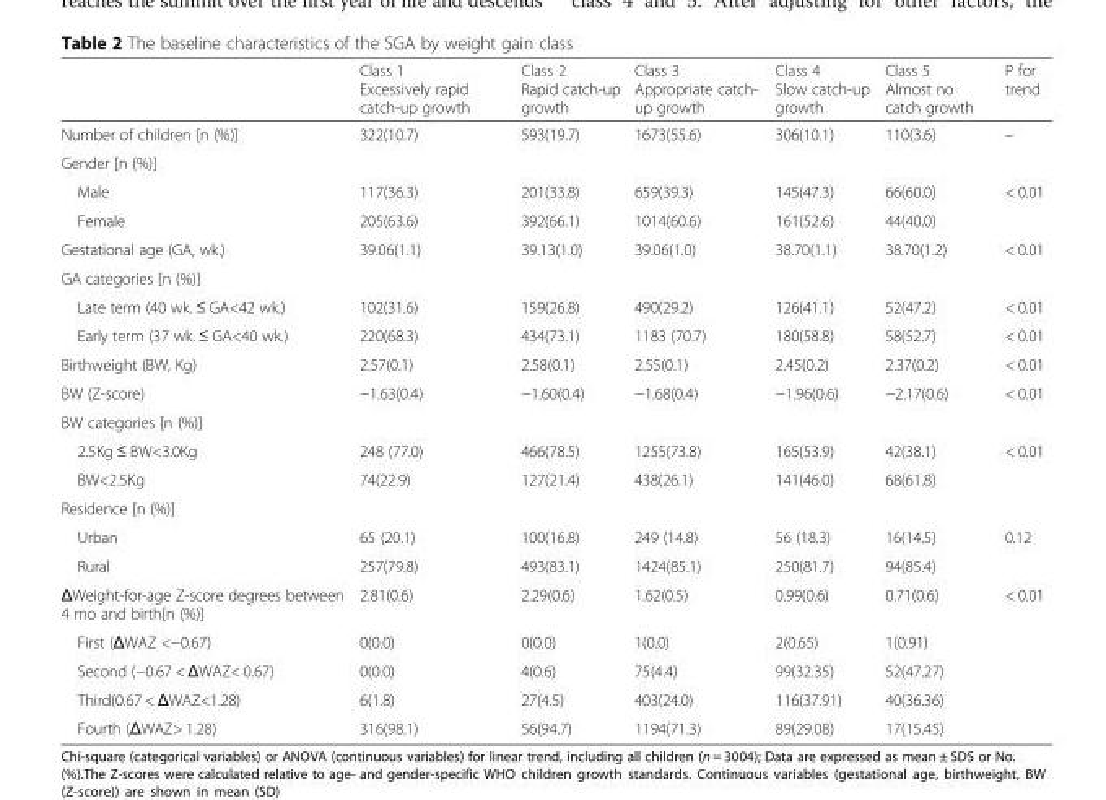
<table><thead><tr><td></td><td>Class 1 Excessively rapid catch-up growth</td><td>Class 2 Rapid catch-up growth</td><td>Class 3 Appropriate catch- up growth</td><td>Class 4 Slow catch-up growth</td><td>Class 5 Almost no catch growth</td><td>P for trend</td></tr></thead><tbody><tr><td>Number of children [n (%)]</td><td>322(10.7)</td><td>593(19.7)</td><td>1673(55.6)</td><td>306(10.1)</td><td>110(3.6)</td><td>–</td></tr><tr><td colspan="7">Gender [n (%)]</td></tr><tr><td>Male</td><td>117(36.3)</td><td>201(33.8)</td><td>659(39.3)</td><td>145(47.3)</td><td>66(60.0)</td><td rowspan="2">&lt; 0.01</td></tr><tr><td>Female</td><td>205(63.6)</td><td>392(66.1)</td><td>1014(60.6)</td><td>161(52.6)</td><td>44(40.0)</td></tr><tr><td>Gestational age (GA, wk.)</td><td>39.06(1.1)</td><td>39.13(1.0)</td><td>39.06(1.0)</td><td>38.70(1.1)</td><td>38.70(1.2)</td><td>&lt; 0.01</td></tr><tr><td colspan="7">GA categories [n (%)]</td></tr><tr><td>Late term (40 wk. ≤ GA&lt;42 wk.)</td><td>102(31.6)</td><td>159(26.8)</td><td>490(29.2)</td><td>126(41.1)</td><td>52(47.2)</td><td>&lt; 0.01</td></tr><tr><td>Early term (37 wk. ≤ GA&lt;40 wk.)</td><td>220(68.3)</td><td>434(73.1)</td><td>1183 (70.7)</td><td>180(58.8)</td><td>58(52.7)</td><td>&lt; 0.01</td></tr><tr><td>Birthweight (BW, Kg)</td><td>2.57(0.1)</td><td>2.58(0.1)</td><td>2.55(0.1)</td><td>2.45(0.2)</td><td>2.37(0.2)</td><td>&lt; 0.01</td></tr><tr><td>BW (Z-score)</td><td>−1.63(0.4)</td><td>−1.60(0.4)</td><td>−1.68(0.4)</td><td>−1.96(0.6)</td><td>−2.17(0.6)</td><td>&lt; 0.01</td></tr><tr><td colspan="7">BW categories [n (%)]</td></tr><tr><td>2.5Kg ≤ BW&lt;3.0Kg</td><td>248 (77.0)</td><td>466(78.5)</td><td>1255(73.8)</td><td>165(53.9)</td><td>42(38.1)</td><td rowspan="2">&lt; 0.01</td></tr><tr><td>BW&lt;2.5Kg</td><td>74(22.9)</td><td>127(21.4)</td><td>438(26.1)</td><td>141(46.0)</td><td>68(61.8)</td></tr><tr><td colspan="7">Residence [n (%)]</td></tr><tr><td>Urban</td><td>65 (20.1)</td><td>100(16.8)</td><td>249 (14.8)</td><td>56 (18.3)</td><td>16(14.5)</td><td rowspan="2">0.12</td></tr><tr><td>Rural</td><td>257(79.8)</td><td>493(83.1)</td><td>1424(85.1)</td><td>250(81.7)</td><td>94(85.4)</td></tr><tr><td>ΔWeight-for-age Z-score degrees between 4 mo and birth[n (%)]</td><td>2.81(0.6)</td><td>2.29(0.6)</td><td>1.62(0.5)</td><td>0.99(0.6)</td><td>0.71(0.6)</td><td>&lt; 0.01</td></tr><tr><td>First (ΔWAZ &lt;−0.67)</td><td>0(0.0)</td><td>0(0.0)</td><td>1(0.0)</td><td>2(0.65)</td><td>1(0.91)</td><td rowspan="4"></td></tr><tr><td>Second (−0.67 &lt; ΔWAZ&lt; 0.67)</td><td>0(0.0)</td><td>4(0.6)</td><td>75(4.4)</td><td>99(32.35)</td><td>52(47.27)</td></tr><tr><td>Third(0.67 &lt; ΔWAZ&lt;1.28)</td><td>6(1.8)</td><td>27(4.5)</td><td>403(24.0)</td><td>116(37.91)</td><td>40(36.36)</td></tr><tr><td>Fourth (ΔWAZ&gt; 1.28)</td><td>316(98.1)</td><td>56(94.7)</td><td>1194(71.3)</td><td>89(29.08)</td><td>17(15.45)</td></tr></tbody></table>